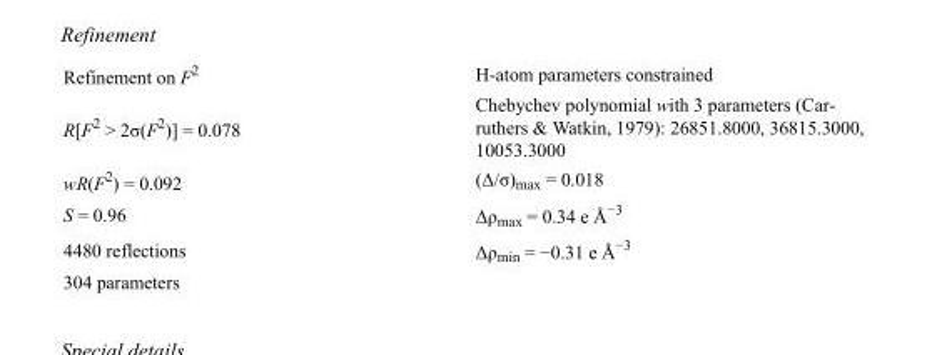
<table><tbody><tr><td>Refinement on F<sup>2</sup></td><td>H-atom parameters constrained</td></tr><tr><td>R[F<sup>2</sup> &gt; 2σ(F<sup>2</sup>)] = 0.078</td><td>Chebychev polynomial with 3 parameters (Car- ruthers &amp; Watkin, 1979): 26851.8000, 36815.3000, 10053.3000</td></tr><tr><td>wR(F<sup>2</sup>) = 0.092</td><td>(Δ/σ)<sub>max</sub> = 0.018</td></tr><tr><td>S = 0.96</td><td>Δρ<sub>max</sub> = 0.34 e Å<sup>−3</sup></td></tr><tr><td>4480 reflections</td><td>Δρ<sub>min</sub> = −0.31 e Å<sup>−3</sup></td></tr><tr><td>304 parameters</td><td></td></tr></tbody></table>